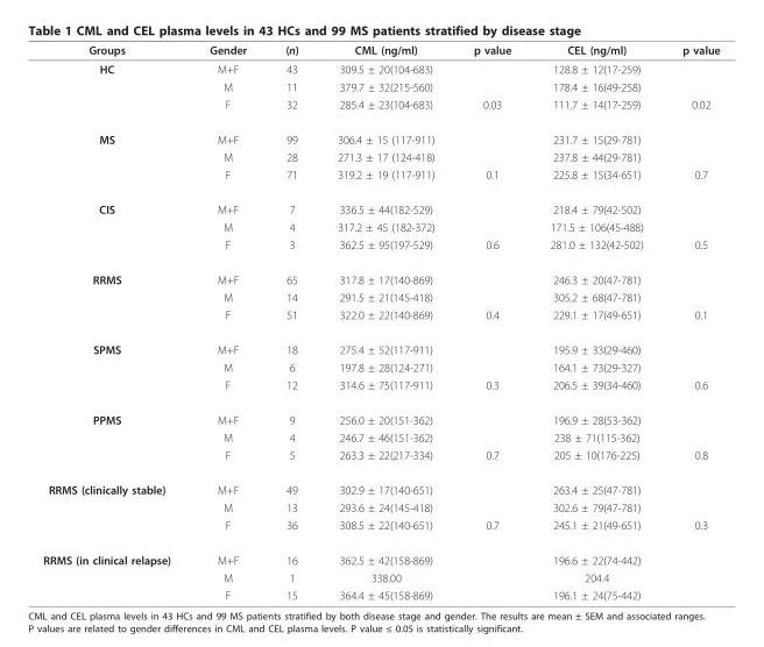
<table><thead><tr><td>Groups</td><td>Gender</td><td>(n)</td><td>CML (ng/ml)</td><td>p value</td><td>CEL (ng/ml)</td><td>p value</td></tr></thead><tbody><tr><td rowspan="3">HC</td><td>M+F</td><td>43</td><td>309.5 ± 20(104-683)</td><td></td><td>128.8 ± 12(17-259)</td><td></td></tr><tr><td>M</td><td>11</td><td>379.7 ± 32(215-560)</td><td></td><td>178.4 ± 16(49-258)</td><td></td></tr><tr><td>F</td><td>32</td><td>285.4 ± 23(104-683)</td><td>0.03</td><td>111.7 ± 14(17-259)</td><td>0.02</td></tr><tr><td rowspan="3">MS</td><td>M+F</td><td>99</td><td>306.4 ± 15 (117-911)</td><td></td><td>231.7 ± 15(29-781)</td><td></td></tr><tr><td>M</td><td>28</td><td>271.3 ± 17 (124-418)</td><td></td><td>237.8 ± 44(29-781)</td><td></td></tr><tr><td>F</td><td>71</td><td>319.2 ± 19 (117-911)</td><td>0.1</td><td>225.8 ± 15(34-651)</td><td>0.7</td></tr><tr><td rowspan="3">CIS</td><td>M+F</td><td>7</td><td>336.5 ± 44(182-529)</td><td></td><td>218.4 ± 79(42-502)</td><td></td></tr><tr><td>M</td><td>4</td><td>317.2 ± 45 (182-372)</td><td></td><td>171.5 ± 106(45-488)</td><td></td></tr><tr><td>F</td><td>3</td><td>362.5 ± 95(197-529)</td><td>0.6</td><td>281.0 ± 132(42-502)</td><td>0.5</td></tr><tr><td rowspan="3">RRMS</td><td>M+F</td><td>65</td><td>317.8 ± 17(140-869)</td><td></td><td>246.3 ± 20(47-781)</td><td></td></tr><tr><td>M</td><td>14</td><td>291.5 ± 21(145-418)</td><td></td><td>305.2 ± 68(47-781)</td><td></td></tr><tr><td>F</td><td>51</td><td>322.0 ± 22(140-869)</td><td>0.4</td><td>229.1 ± 17(49-651)</td><td>0.1</td></tr><tr><td rowspan="3">SPMS</td><td>M+F</td><td>18</td><td>275.4 ± 52(117-911)</td><td></td><td>195.9 ± 33(29-460)</td><td></td></tr><tr><td>M</td><td>6</td><td>197.8 ± 28(124-271)</td><td></td><td>164.1 ± 73(29-327)</td><td></td></tr><tr><td>F</td><td>12</td><td>314.6 ± 75(117-911)</td><td>0.3</td><td>206.5 ± 39(34-460)</td><td>0.6</td></tr><tr><td rowspan="3">PPMS</td><td>M+F</td><td>9</td><td>256.0 ± 20(151-362)</td><td></td><td>196.9 ± 28(53-362)</td><td></td></tr><tr><td>M</td><td>4</td><td>246.7 ± 46(151-362)</td><td></td><td>238 ± 71(115-362)</td><td></td></tr><tr><td>F</td><td>5</td><td>263.3 ± 22(217-334)</td><td>0.7</td><td>205 ± 10(176-225)</td><td>0.8</td></tr><tr><td rowspan="3">RRMS (clinically stable)</td><td>M+F</td><td>49</td><td>302.9 ± 17(140-651)</td><td></td><td>263.4 ± 25(47-781)</td><td></td></tr><tr><td>M</td><td>13</td><td>293.6 ± 24(145-418)</td><td></td><td>302.6 ± 79(47-781)</td><td></td></tr><tr><td>F</td><td>36</td><td>308.5 ± 22(140-651)</td><td>0.7</td><td>245.1 ± 21(49-651)</td><td>0.3</td></tr><tr><td rowspan="3">RRMS (in clinical relapse)</td><td>M+F</td><td>16</td><td>362.5 ± 42(158-869)</td><td></td><td>196.6 ± 22(74-442)</td><td></td></tr><tr><td>M</td><td>1</td><td>338.00</td><td></td><td>204.4</td><td></td></tr><tr><td>F</td><td>15</td><td>364.4 ± 45(158-869)</td><td></td><td>196.1 ± 24(75-442)</td><td></td></tr></tbody></table>